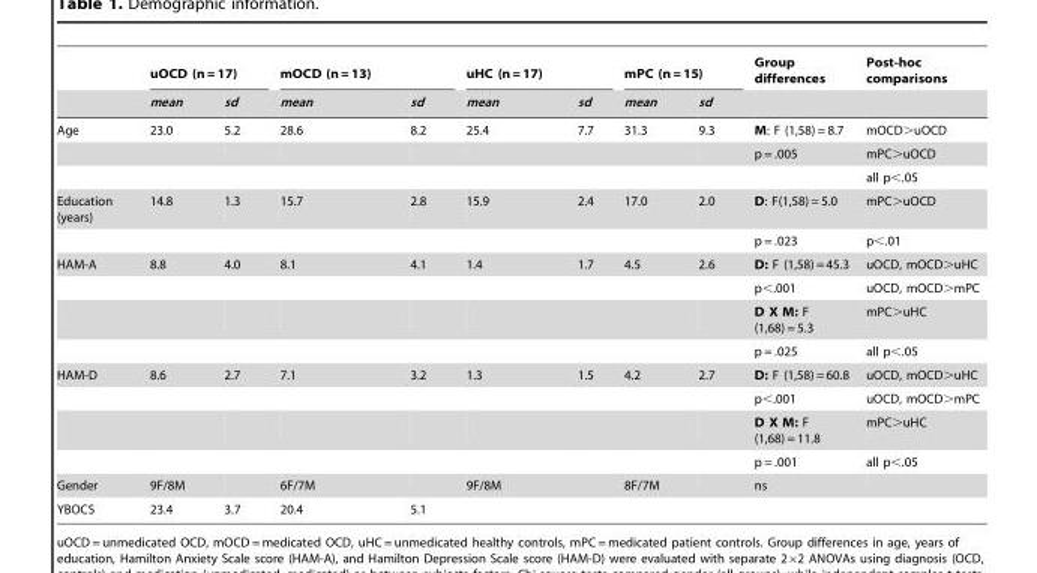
<table><thead><tr><td rowspan="2"></td><td colspan="2">uOCD (n = 17)</td><td colspan="2">mOCD (n = 13)</td><td colspan="2">uHC (n = 17)</td><td colspan="2">mPC (n = 15)</td><td rowspan="2">Group differences</td><td rowspan="2">Post-hoc comparisons</td></tr><tr><td>mean</td><td>sd</td><td>mean</td><td>sd</td><td>mean</td><td>sd</td><td>mean</td><td>sd</td></tr></thead><tbody><tr><td rowspan="3">Age</td><td>23.0</td><td>5.2</td><td>28.6</td><td>8.2</td><td>25.4</td><td>7.7</td><td>31.3</td><td>9.3</td><td>M: F (1,58) = 8.7</td><td>mOCD&gt;uOCD</td></tr><tr><td></td><td></td><td></td><td></td><td></td><td></td><td></td><td></td><td>p = .005</td><td>mPC&gt;uOCD</td></tr><tr><td></td><td></td><td></td><td></td><td></td><td></td><td></td><td></td><td></td><td>all p&lt;.05</td></tr><tr><td rowspan="2">Education (years)</td><td>14.8</td><td>1.3</td><td>15.7</td><td>2.8</td><td>15.9</td><td>2.4</td><td>17.0</td><td>2.0</td><td>D: F(1,58) = 5.0</td><td>mPC&gt;uOCD</td></tr><tr><td></td><td></td><td></td><td></td><td></td><td></td><td></td><td></td><td>p = .023</td><td>p&lt;.01</td></tr><tr><td rowspan="4">HAM-A</td><td>8.8</td><td>4.0</td><td>8.1</td><td>4.1</td><td>1.4</td><td>1.7</td><td>4.5</td><td>2.6</td><td>D: F (1,58) = 45.3</td><td>uOCD, mOCD&gt;uHC</td></tr><tr><td></td><td></td><td></td><td></td><td></td><td></td><td></td><td></td><td>p&lt;.001</td><td>uOCD, mOCD&gt;mPC</td></tr><tr><td></td><td></td><td></td><td></td><td></td><td></td><td></td><td></td><td>D X M: F (1,68) = 5.3</td><td>mPC&gt;uHC</td></tr><tr><td></td><td></td><td></td><td></td><td></td><td></td><td></td><td></td><td>p = .025</td><td>all p&lt;.05</td></tr><tr><td rowspan="4">HAM-D</td><td>8.6</td><td>2.7</td><td>7.1</td><td>3.2</td><td>1.3</td><td>1.5</td><td>4.2</td><td>2.7</td><td>D: F (1,58) = 60.8</td><td>uOCD, mOCD&gt;uHC</td></tr><tr><td></td><td></td><td></td><td></td><td></td><td></td><td></td><td></td><td>p&lt;.001</td><td>uOCD, mOCD&gt;mPC</td></tr><tr><td></td><td></td><td></td><td></td><td></td><td></td><td></td><td></td><td>D X M: F (1,68) = 11.8</td><td>mPC&gt;uHC</td></tr><tr><td></td><td></td><td></td><td></td><td></td><td></td><td></td><td></td><td>p = .001</td><td>all p&lt;.05</td></tr><tr><td>Gender</td><td>9F/8M</td><td></td><td>6F/7M</td><td></td><td>9F/8M</td><td></td><td>8F/7M</td><td></td><td>ns</td><td></td></tr><tr><td>YBOCS</td><td>23.4</td><td>3.7</td><td>20.4</td><td>5.1</td><td></td><td></td><td></td><td></td><td></td><td></td></tr></tbody></table>